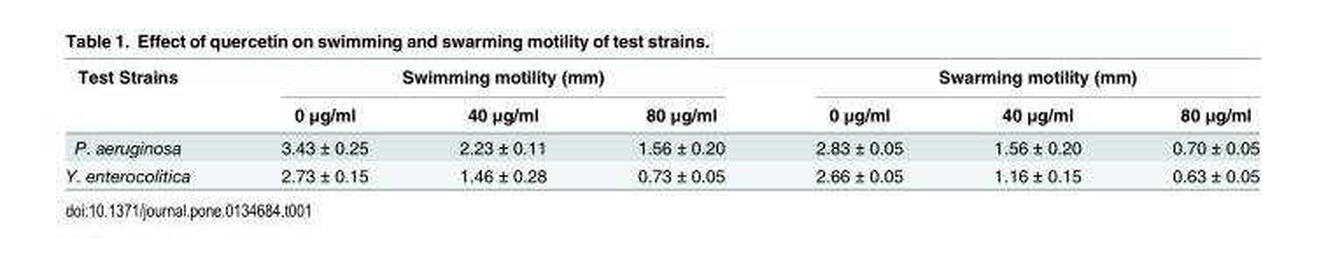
<table><thead><tr><td rowspan="2">Test Strains</td><td colspan="3">Swimming motility (mm)</td><td colspan="3">Swarming motility (mm)</td></tr><tr><td>0 μg/ml</td><td>40 μg/ml</td><td>80 μg/ml</td><td>0 μg/ml</td><td>40 μg/ml</td><td>80 μg/ml</td></tr></thead><tbody><tr><td>P. aeruginosa</td><td>3.43 ± 0.25</td><td>2.23 ± 0.11</td><td>1.56 ± 0.20</td><td>2.83 ± 0.05</td><td>1.56 ± 0.20</td><td>0.70 ± 0.05</td></tr><tr><td>Y. enterocolitica</td><td>2.73 ± 0.15</td><td>1.46 ± 0.28</td><td>0.73 ± 0.05</td><td>2.66 ± 0.05</td><td>1.16 ± 0.15</td><td>0.63 ± 0.05</td></tr></tbody></table>